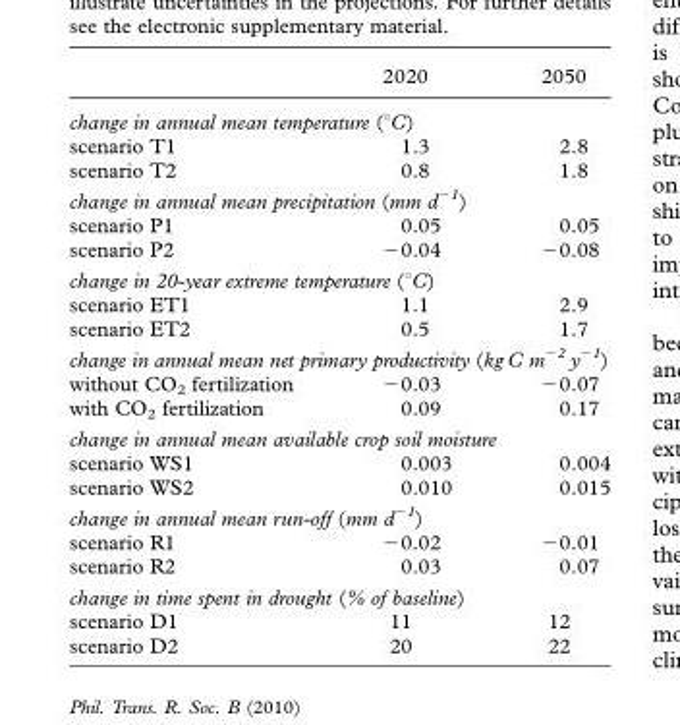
<table><thead><tr><td></td><td>2020</td><td>2050</td></tr></thead><tbody><tr><td colspan="3">change in annual mean temperature (°C)</td></tr><tr><td>scenario T1</td><td>1.3</td><td>2.8</td></tr><tr><td>scenario T2</td><td>0.8</td><td>1.8</td></tr><tr><td colspan="3">change in annual mean precipitation (mm d−1)</td></tr><tr><td>scenario P1</td><td>0.05</td><td>0.05</td></tr><tr><td>scenario P2</td><td>−0.04</td><td>−0.08</td></tr><tr><td colspan="3">change in 20-year extreme temperature (°C)</td></tr><tr><td>scenario ET1</td><td>1.1</td><td>2.9</td></tr><tr><td>scenario ET2</td><td>0.5</td><td>1.7</td></tr><tr><td colspan="3">change in annual mean net primary productivity (kg C m−2 y−1)</td></tr><tr><td>without CO<sub>2</sub> fertilization</td><td>−0.03</td><td>−0.07</td></tr><tr><td>with CO<sub>2</sub> fertilization</td><td>0.09</td><td>0.17</td></tr><tr><td colspan="3">change in annual mean available crop soil moisture</td></tr><tr><td>scenario WS1</td><td>0.003</td><td>0.004</td></tr><tr><td>scenario WS2</td><td>0.010</td><td>0.015</td></tr><tr><td colspan="3">change in annual mean run-off (mm d−1)</td></tr><tr><td>scenario R1</td><td>−0.02</td><td>−0.01</td></tr><tr><td>scenario R2</td><td>0.03</td><td>0.07</td></tr><tr><td colspan="3">change in time spent in drought (% of baseline)</td></tr><tr><td>scenario D1</td><td>11</td><td>12</td></tr><tr><td>scenario D2</td><td>20</td><td>22</td></tr></tbody></table>